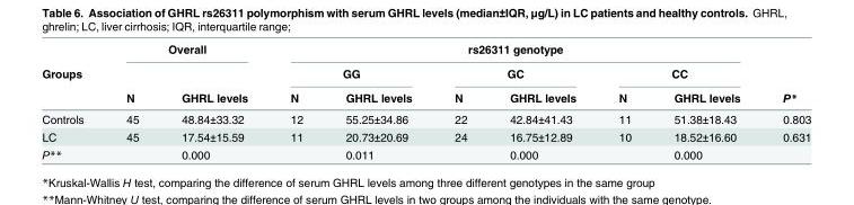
<table><thead><tr><td rowspan="3">Groups</td><td colspan="2">Overall</td><td colspan="6">rs26311 genotype</td><td rowspan="3">P*</td></tr><tr><td rowspan="2">N</td><td rowspan="2">GHRL levels</td><td colspan="2">GG</td><td colspan="2">GC</td><td colspan="2">CC</td></tr><tr><td>N</td><td>GHRL levels</td><td>N</td><td>GHRL levels</td><td>N</td><td>GHRL levels</td></tr></thead><tbody><tr><td>Controls</td><td>45</td><td>48.84±33.32</td><td>12</td><td>55.25±34.86</td><td>22</td><td>42.84±41.43</td><td>11</td><td>51.38±18.43</td><td>0.803</td></tr><tr><td>LC</td><td>45</td><td>17.54±15.59</td><td>11</td><td>20.73±20.69</td><td>24</td><td>16.75±12.89</td><td>10</td><td>18.52±16.60</td><td>0.631</td></tr><tr><td>P**</td><td></td><td>0.000</td><td></td><td>0.011</td><td></td><td>0.000</td><td></td><td>0.000</td><td></td></tr></tbody></table>